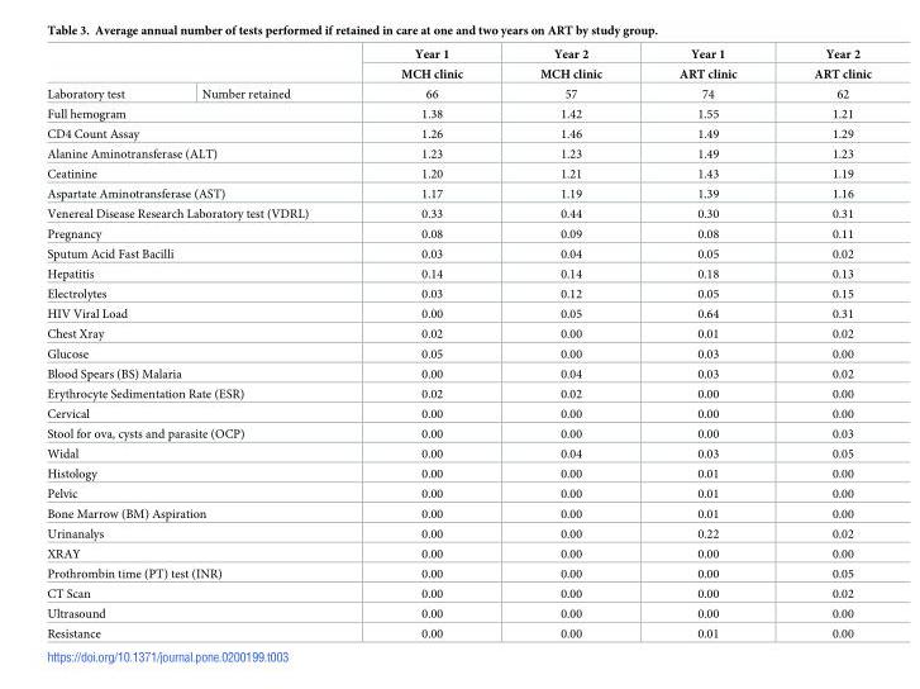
<table><thead><tr><td rowspan="2"></td><td rowspan="2"></td><td rowspan="2">Year 1 MCH clinic</td><td rowspan="2">Year 2 MCH clinic</td><td rowspan="2">Year 1 ART clinic</td><td rowspan="2">Year 2 ART clinic</td></tr><tr></tr></thead><tbody><tr><td>Laboratory test</td><td>Number retained</td><td>66</td><td>57</td><td>74</td><td>62</td></tr><tr><td colspan="2">Full hemogram</td><td>1.38</td><td>1.42</td><td>1.55</td><td>1.21</td></tr><tr><td colspan="2">CD4 Count Assay</td><td>1.26</td><td>1.46</td><td>1.49</td><td>1.29</td></tr><tr><td colspan="2">Alanine Aminotransferase (ALT)</td><td>1.23</td><td>1.23</td><td>1.49</td><td>1.23</td></tr><tr><td colspan="2">Ceatinine</td><td>1.20</td><td>1.21</td><td>1.43</td><td>1.19</td></tr><tr><td colspan="2">Aspartate Aminotransferase (AST)</td><td>1.17</td><td>1.19</td><td>1.39</td><td>1.16</td></tr><tr><td colspan="2">Venereal Disease Research Laboratory test (VDRL)</td><td>0.33</td><td>0.44</td><td>0.30</td><td>0.31</td></tr><tr><td colspan="2">Pregnancy</td><td>0.08</td><td>0.09</td><td>0.08</td><td>0.11</td></tr><tr><td colspan="2">Sputum Acid Fast Bacilli</td><td>0.03</td><td>0.04</td><td>0.05</td><td>0.02</td></tr><tr><td colspan="2">Hepatitis</td><td>0.14</td><td>0.14</td><td>0.18</td><td>0.13</td></tr><tr><td colspan="2">Electrolytes</td><td>0.03</td><td>0.12</td><td>0.05</td><td>0.15</td></tr><tr><td colspan="2">HIV Viral Load</td><td>0.00</td><td>0.05</td><td>0.64</td><td>0.31</td></tr><tr><td colspan="2">Chest Xray</td><td>0.02</td><td>0.00</td><td>0.01</td><td>0.02</td></tr><tr><td colspan="2">Glucose</td><td>0.05</td><td>0.00</td><td>0.03</td><td>0.00</td></tr><tr><td colspan="2">Blood Spears (BS) Malaria</td><td>0.00</td><td>0.04</td><td>0.03</td><td>0.02</td></tr><tr><td colspan="2">Erythrocyte Sedimentation Rate (ESR)</td><td>0.02</td><td>0.02</td><td>0.00</td><td>0.00</td></tr><tr><td colspan="2">Cervical</td><td>0.00</td><td>0.00</td><td>0.00</td><td>0.00</td></tr><tr><td colspan="2">Stool for ova, cysts and parasite (OCP)</td><td>0.00</td><td>0.00</td><td>0.00</td><td>0.03</td></tr><tr><td colspan="2">Widal</td><td>0.00</td><td>0.04</td><td>0.03</td><td>0.05</td></tr><tr><td colspan="2">Histology</td><td>0.00</td><td>0.00</td><td>0.01</td><td>0.00</td></tr><tr><td colspan="2">Pelvic</td><td>0.00</td><td>0.00</td><td>0.01</td><td>0.00</td></tr><tr><td colspan="2">Bone Marrow (BM) Aspiration</td><td>0.00</td><td>0.00</td><td>0.01</td><td>0.00</td></tr><tr><td colspan="2">Urinanalys</td><td>0.00</td><td>0.00</td><td>0.22</td><td>0.02</td></tr><tr><td colspan="2">XRAY</td><td>0.00</td><td>0.00</td><td>0.00</td><td>0.00</td></tr><tr><td colspan="2">Prothrombin time (PT) test (INR)</td><td>0.00</td><td>0.00</td><td>0.00</td><td>0.05</td></tr><tr><td colspan="2">CT Scan</td><td>0.00</td><td>0.00</td><td>0.00</td><td>0.02</td></tr><tr><td colspan="2">Ultrasound</td><td>0.00</td><td>0.00</td><td>0.00</td><td>0.00</td></tr><tr><td colspan="2">Resistance</td><td>0.00</td><td>0.00</td><td>0.01</td><td>0.00</td></tr></tbody></table>